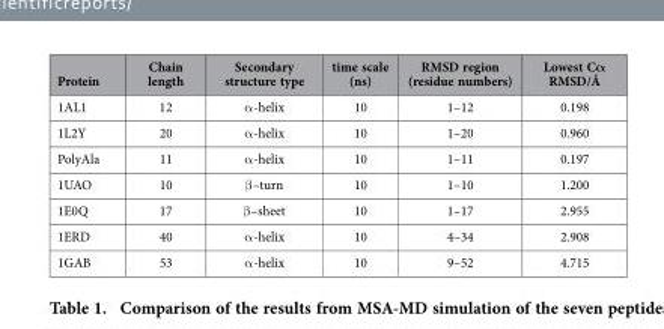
<table><thead><tr><td>Protein</td><td>Chain length</td><td>Secondary structure type</td><td>time scale (ns)</td><td>RMSD region (residue numbers)</td><td>Lowest Cα RMSD/Å</td></tr></thead><tbody><tr><td>1AL1</td><td>12</td><td>α -helix</td><td>10</td><td>1–12</td><td>0.198</td></tr><tr><td>1L2Y</td><td>20</td><td>α -helix</td><td>10</td><td>1–20</td><td>0.960</td></tr><tr><td>PolyAla</td><td>11</td><td>α -helix</td><td>10</td><td>1–11</td><td>0.197</td></tr><tr><td>1UAO</td><td>10</td><td>β –turn</td><td>10</td><td>1–10</td><td>1.200</td></tr><tr><td>1E0Q</td><td>17</td><td>β –sheet</td><td>10</td><td>1–17</td><td>2.955</td></tr><tr><td>1ERD</td><td>40</td><td>α -helix</td><td>10</td><td>4–34</td><td>2.908</td></tr><tr><td>1GAB</td><td>53</td><td>α -helix</td><td>10</td><td>9–52</td><td>4.715</td></tr></tbody></table>